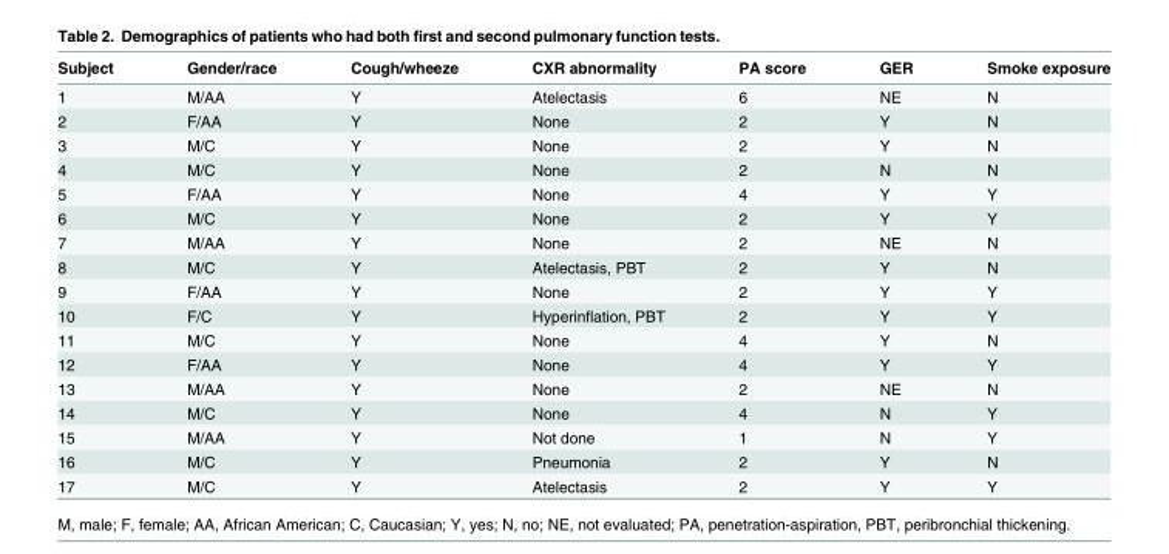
<table><thead><tr><td>Subject</td><td>Gender/race</td><td>Cough/wheeze</td><td>CXR abnormality</td><td>PA score</td><td>GER</td><td>Smoke exposure</td></tr></thead><tbody><tr><td>1</td><td>M/AA</td><td>Y</td><td>Atelectasis</td><td>6</td><td>NE</td><td>N</td></tr><tr><td>2</td><td>F/AA</td><td>Y</td><td>None</td><td>2</td><td>Y</td><td>N</td></tr><tr><td>3</td><td>M/C</td><td>Y</td><td>None</td><td>2</td><td>Y</td><td>N</td></tr><tr><td>4</td><td>M/C</td><td>Y</td><td>None</td><td>2</td><td>N</td><td>N</td></tr><tr><td>5</td><td>F/AA</td><td>Y</td><td>None</td><td>4</td><td>Y</td><td>Y</td></tr><tr><td>6</td><td>M/C</td><td>Y</td><td>None</td><td>2</td><td>Y</td><td>Y</td></tr><tr><td>7</td><td>M/AA</td><td>Y</td><td>None</td><td>2</td><td>NE</td><td>N</td></tr><tr><td>8</td><td>M/C</td><td>Y</td><td>Atelectasis, PBT</td><td>2</td><td>Y</td><td>N</td></tr><tr><td>9</td><td>F/AA</td><td>Y</td><td>None</td><td>2</td><td>Y</td><td>Y</td></tr><tr><td>10</td><td>F/C</td><td>Y</td><td>Hyperinflation, PBT</td><td>2</td><td>Y</td><td>Y</td></tr><tr><td>11</td><td>M/C</td><td>Y</td><td>None</td><td>4</td><td>Y</td><td>N</td></tr><tr><td>12</td><td>F/AA</td><td>Y</td><td>None</td><td>4</td><td>Y</td><td>Y</td></tr><tr><td>13</td><td>M/AA</td><td>Y</td><td>None</td><td>2</td><td>NE</td><td>N</td></tr><tr><td>14</td><td>M/C</td><td>Y</td><td>None</td><td>4</td><td>N</td><td>Y</td></tr><tr><td>15</td><td>M/AA</td><td>Y</td><td>Not done</td><td>1</td><td>N</td><td>Y</td></tr><tr><td>16</td><td>M/C</td><td>Y</td><td>Pneumonia</td><td>2</td><td>Y</td><td>N</td></tr><tr><td>17</td><td>M/C</td><td>Y</td><td>Atelectasis</td><td>2</td><td>Y</td><td>Y</td></tr></tbody></table>